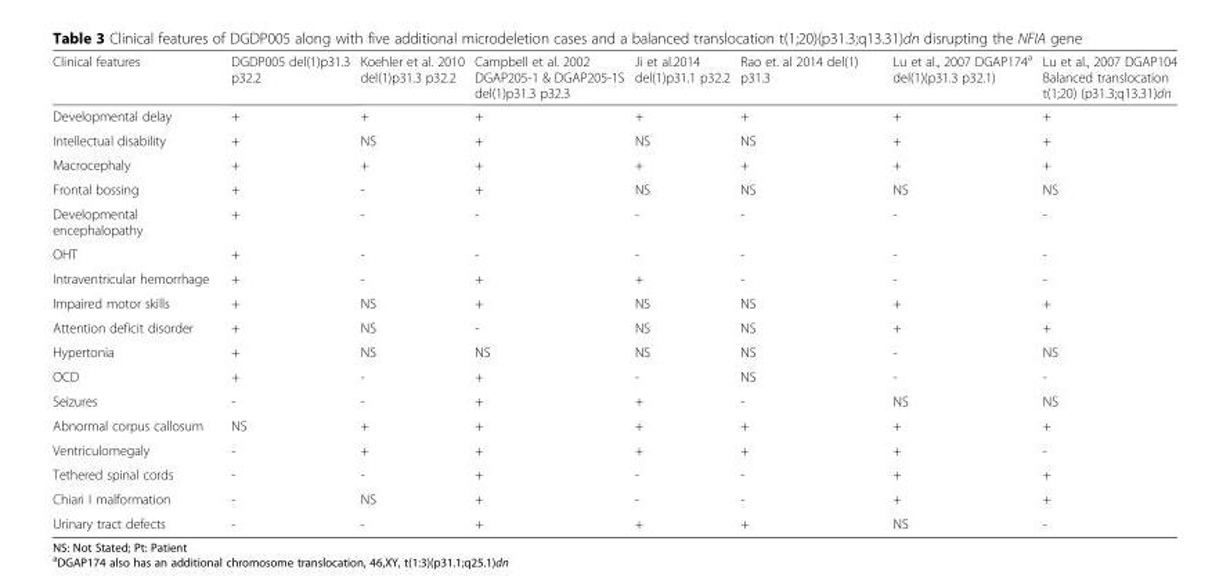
<table><thead><tr><td>Clinical features</td><td>DGDP005 del(1)p31.3 p32.2</td><td>Koehler et al. 2010 del(1)p31.3 p32.2</td><td>Campbell et al. 2002 DGAP205-1 &amp; DGAP205-1S del(1)p31.3 p32.3</td><td>Ji et al.2014 del(1)p31.1 p32.2</td><td>Rao et. al 2014 del(1) p31.3</td><td>Lu et al., 2007 DGAP174<sup>a</sup> del(1)(p31.3 p32.1)</td><td>Lu et al., 2007 DGAP104 Balanced translocation t(1;20) (p31.3;q13.31)dn</td></tr></thead><tbody><tr><td>Developmental delay</td><td>+</td><td>+</td><td>+</td><td>+</td><td>+</td><td>+</td><td>+</td></tr><tr><td>Intellectual disability</td><td>+</td><td>NS</td><td>+</td><td>NS</td><td>NS</td><td>+</td><td>+</td></tr><tr><td>Macrocephaly</td><td>+</td><td>+</td><td>+</td><td>+</td><td>+</td><td>+</td><td>+</td></tr><tr><td>Frontal bossing</td><td>+</td><td>-</td><td>+</td><td>NS</td><td>NS</td><td>NS</td><td>NS</td></tr><tr><td>Developmental encephalopathy</td><td>+</td><td>-</td><td>-</td><td>-</td><td>-</td><td>-</td><td>-</td></tr><tr><td>OHT</td><td>+</td><td>-</td><td>-</td><td>-</td><td>-</td><td>-</td><td>-</td></tr><tr><td>Intraventricular hemorrhage</td><td>+</td><td>-</td><td>+</td><td>+</td><td>-</td><td>-</td><td>-</td></tr><tr><td>Impaired motor skills</td><td>+</td><td>NS</td><td>+</td><td>NS</td><td>NS</td><td>+</td><td>+</td></tr><tr><td>Attention deficit disorder</td><td>+</td><td>NS</td><td>-</td><td>NS</td><td>NS</td><td>+</td><td>+</td></tr><tr><td>Hypertonia</td><td>+</td><td>NS</td><td>NS</td><td>NS</td><td>NS</td><td>-</td><td>NS</td></tr><tr><td>OCD</td><td>+</td><td>-</td><td>+</td><td>-</td><td>NS</td><td>-</td><td>-</td></tr><tr><td>Seizures</td><td>-</td><td>-</td><td>+</td><td>+</td><td>-</td><td>NS</td><td>NS</td></tr><tr><td>Abnormal corpus callosum</td><td>NS</td><td>+</td><td>+</td><td>+</td><td>+</td><td>+</td><td>+</td></tr><tr><td>Ventriculomegaly</td><td>-</td><td>+</td><td>+</td><td>+</td><td>+</td><td>+</td><td>-</td></tr><tr><td>Tethered spinal cords</td><td>-</td><td>-</td><td>+</td><td>-</td><td>-</td><td>+</td><td>+</td></tr><tr><td>Chiari I malformation</td><td>-</td><td>NS</td><td>+</td><td>-</td><td>-</td><td>+</td><td>+</td></tr><tr><td>Urinary tract defects</td><td>-</td><td>-</td><td>+</td><td>+</td><td>+</td><td>NS</td><td>-</td></tr></tbody></table>